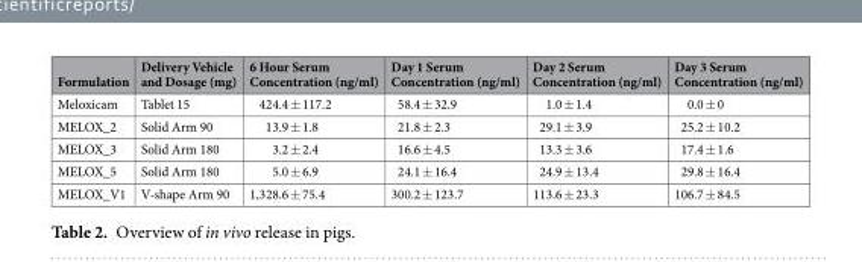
<table><thead><tr><td>Formulation</td><td>Delivery Vehicle and Dosage (mg)</td><td>6 Hour Serum Concentration (ng/ml)</td><td>Day 1 Serum Concentration (ng/ml)</td><td>Day 2 Serum Concentration (ng/ml)</td><td>Day 3 Serum Concentration (ng/ml)</td></tr></thead><tbody><tr><td>Meloxicam</td><td>Tablet 15</td><td>424.4 ± 117.2</td><td>58.4 ± 32.9</td><td>1.0 ± 1.4</td><td>0.0 ± 0</td></tr><tr><td>MELOX_2</td><td>Solid Arm 90</td><td>13.9 ± 1.8</td><td>21.8 ± 2.3</td><td>29.1 ± 3.9</td><td>25.2 ± 10.2</td></tr><tr><td>MELOX_3</td><td>Solid Arm 180</td><td>3.2 ± 2.4</td><td>16.6 ± 4.5</td><td>13.3 ± 3.6</td><td>17.4 ± 1.6</td></tr><tr><td>MELOX_5</td><td>Solid Arm 180</td><td>5.0 ± 6.9</td><td>24.1 ± 16.4</td><td>24.9 ± 13.4</td><td>29.8 ± 16.4</td></tr><tr><td>MELOX_V1</td><td>V-shape Arm 90</td><td>1,328.6 ± 75.4</td><td>300.2 ± 123.7</td><td>113.6 ± 23.3</td><td>106.7 ± 84.5</td></tr></tbody></table>